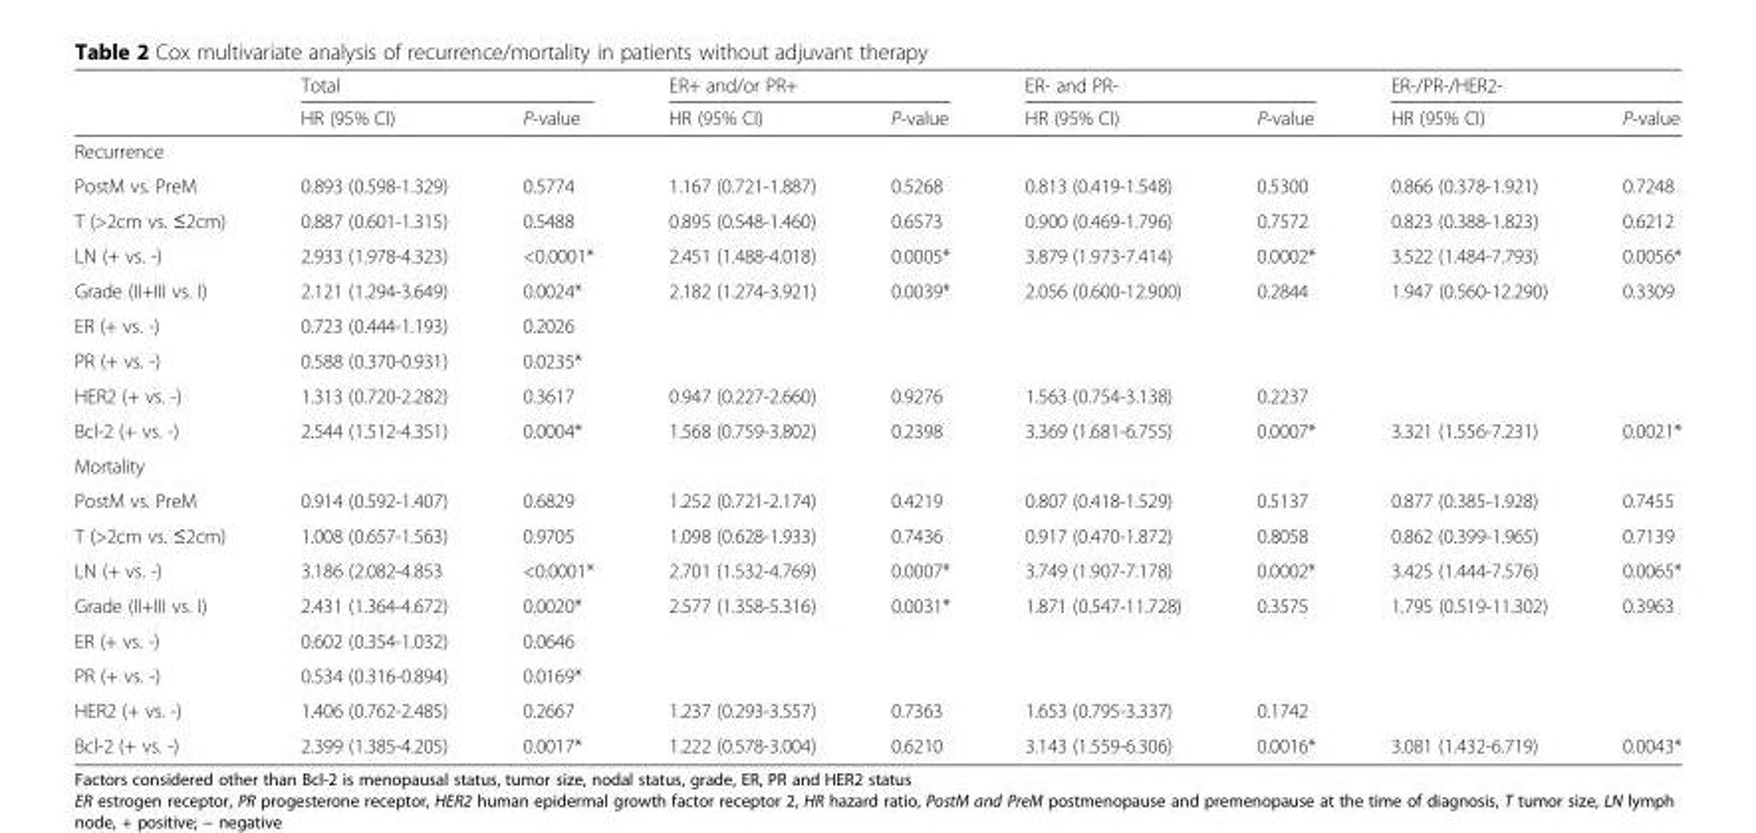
<table><thead><tr><td rowspan="2"></td><td colspan="2">Total</td><td colspan="2">ER+ and/or PR+</td><td colspan="2">ER- and PR-</td><td colspan="2">ER-/PR-/HER2-</td></tr><tr><td>HR (95% CI)</td><td>P-value</td><td>HR (95% CI)</td><td>P-value</td><td>HR (95% CI)</td><td>P-value</td><td>HR (95% CI)</td><td>P-value</td></tr></thead><tbody><tr><td colspan="9">Recurrence</td></tr><tr><td>PostM vs. PreM</td><td>0.893 (0.598-1.329)</td><td>0.5774</td><td>1.167 (0.721-1.887)</td><td>0.5268</td><td>0.813 (0.419-1.548)</td><td>0.5300</td><td>0.866 (0.378-1.921)</td><td>0.7248</td></tr><tr><td>T (&gt;2cm vs. ≤2cm)</td><td>0.887 (0.601-1.315)</td><td>0.5488</td><td>0.895 (0.548-1.460)</td><td>0.6573</td><td>0.900 (0.469-1.796)</td><td>0.7572</td><td>0.823 (0.388-1.823)</td><td>0.6212</td></tr><tr><td>LN (+ vs. -)</td><td>2.933 (1.978-4.323)</td><td>&lt;0.0001*</td><td>2.451 (1.488-4.018)</td><td>0.0005*</td><td>3.879 (1.973-7.414)</td><td>0.0002*</td><td>3.522 (1.484-7.793)</td><td>0.0056*</td></tr><tr><td>Grade (II+III vs. I)</td><td>2.121 (1.294-3.649)</td><td>0.0024*</td><td>2.182 (1.274-3.921)</td><td>0.0039*</td><td>2.056 (0.600-12.900)</td><td>0.2844</td><td>1.947 (0.560-12.290)</td><td>0.3309</td></tr><tr><td>ER (+ vs. -)</td><td>0.723 (0.444-1.193)</td><td>0.2026</td><td></td><td></td><td></td><td></td><td></td><td></td></tr><tr><td>PR (+ vs. -)</td><td>0.588 (0.370-0.931)</td><td>0.0235*</td><td></td><td></td><td></td><td></td><td></td><td></td></tr><tr><td>HER2 (+ vs. -)</td><td>1.313 (0.720-2.282)</td><td>0.3617</td><td>0.947 (0.227-2.660)</td><td>0.9276</td><td>1.563 (0.754-3.138)</td><td>0.2237</td><td></td><td></td></tr><tr><td>Bcl-2 (+ vs. -)</td><td>2.544 (1.512-4.351)</td><td>0.0004*</td><td>1.568 (0.759-3.802)</td><td>0.2398</td><td>3.369 (1.681-6.755)</td><td>0.0007*</td><td>3.321 (1.556-7.231)</td><td>0.0021*</td></tr><tr><td colspan="9">Mortality</td></tr><tr><td>PostM vs. PreM</td><td>0.914 (0.592-1.407)</td><td>0.6829</td><td>1.252 (0.721-2.174)</td><td>0.4219</td><td>0.807 (0.418-1.529)</td><td>0.5137</td><td>0.877 (0.385-1.928)</td><td>0.7455</td></tr><tr><td>T (&gt;2cm vs. ≤2cm)</td><td>1.008 (0.657-1.563)</td><td>0.9705</td><td>1.098 (0.628-1.933)</td><td>0.7436</td><td>0.917 (0.470-1.872)</td><td>0.8058</td><td>0.862 (0.399-1.965)</td><td>0.7139</td></tr><tr><td>LN (+ vs. -)</td><td>3.186 (2.082-4.853</td><td>&lt;0.0001*</td><td>2.701 (1.532-4.769)</td><td>0.0007*</td><td>3.749 (1.907-7.178)</td><td>0.0002*</td><td>3.425 (1.444-7.576)</td><td>0.0065*</td></tr><tr><td>Grade (II+III vs. I)</td><td>2.431 (1.364-4.672)</td><td>0.0020*</td><td>2.577 (1.358-5.316)</td><td>0.0031*</td><td>1.871 (0.547-11.728)</td><td>0.3575</td><td>1.795 (0.519-11.302)</td><td>0.3963</td></tr><tr><td>ER (+ vs. -)</td><td>0.602 (0.354-1.032)</td><td>0.0646</td><td></td><td></td><td></td><td></td><td></td><td></td></tr><tr><td>PR (+ vs. -)</td><td>0.534 (0.316-0.894)</td><td>0.0169*</td><td></td><td></td><td></td><td></td><td></td><td></td></tr><tr><td>HER2 (+ vs. -)</td><td>1.406 (0.762-2.485)</td><td>0.2667</td><td>1.237 (0.293-3.557)</td><td>0.7363</td><td>1.653 (0.795-3.337)</td><td>0.1742</td><td></td><td></td></tr><tr><td>Bcl-2 (+ vs. -)</td><td>2.399 (1.385-4.205)</td><td>0.0017*</td><td>1.222 (0.578-3.004)</td><td>0.6210</td><td>3.143 (1.559-6.306)</td><td>0.0016*</td><td>3.081 (1.432-6.719)</td><td>0.0043*</td></tr></tbody></table>